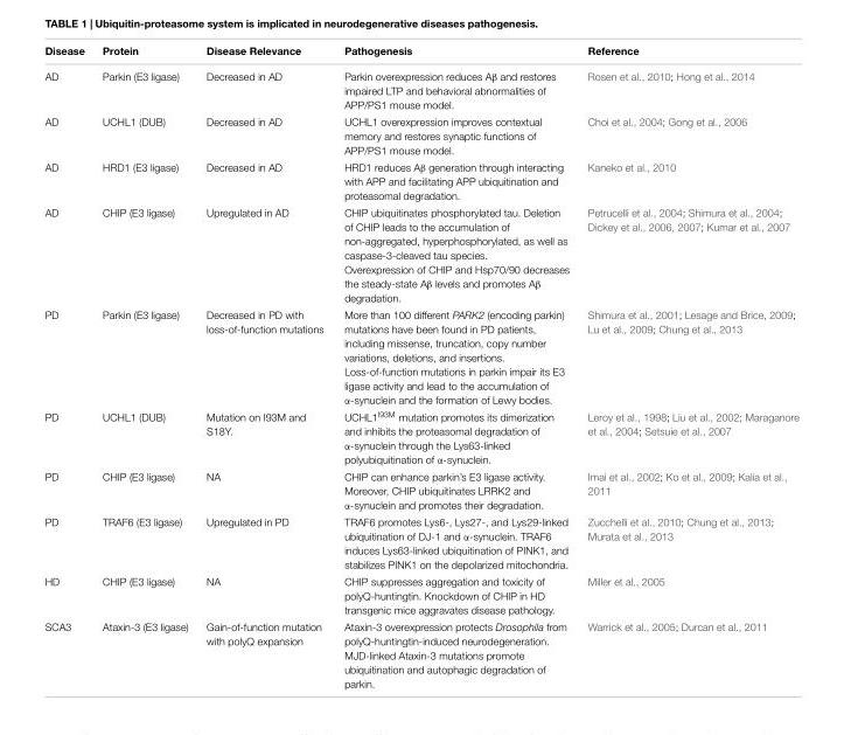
<table><thead><tr><td>Disease</td><td>Protein</td><td>Disease Relevance</td><td>Pathogenesis</td><td>Reference</td></tr></thead><tbody><tr><td>AD</td><td>Parkin (E3 ligase)</td><td>Decreased in AD</td><td>Parkin overexpression reduces Aβ and restores impaired LTP and behavioral abnormalities of APP/PS1 mouse model.</td><td>Rosen et al., 2010; Hong et al., 2014</td></tr><tr><td>AD</td><td>UCHL1 (DUB)</td><td>Decreased in AD</td><td>UCHL1 overexpression improves contextual memory and restores synaptic functions of APP/PS1 mouse model.</td><td>Choi et al., 2004; Gong et al., 2006</td></tr><tr><td>AD</td><td>HRD1 (E3 ligase)</td><td>Decreased in AD</td><td>HRD1 reduces Aβ generation through interacting with APP and facilitating APP ubiquitination and proteasomal degradation.</td><td>Kaneko et al., 2010</td></tr><tr><td>AD</td><td>CHIP (E3 ligase)</td><td>Upregulated in AD</td><td>CHIP ubiquitinates phosphorylated tau. Deletion of CHIP leads to the accumulation of non-aggregated, hyperphosphorylated, as well as caspase-3-cleaved tau species. Overexpression of CHIP and Hsp70/90 decreases the steady-state Aβ levels and promotes Aβ degradation.</td><td>Petrucelli et al., 2004; Shimura et al., 2004; Dickey et al., 2006, 2007; Kumar et al., 2007</td></tr><tr><td>PD</td><td>Parkin (E3 ligase)</td><td>Decreased in PD with loss-of-function mutations</td><td>More than 100 different PARK2 (encoding parkin) mutations have been found in PD patients, including missense, truncation, copy number variations, deletions, and insertions. Loss-of-function mutations in parkin impair its E3 ligase activity and lead to the accumulation of α-synuclein and the formation of Lewy bodies.</td><td>Shimura et al., 2001; Lesage and Brice, 2009; Lu et al., 2009; Chung et al., 2013</td></tr><tr><td>PD</td><td>UCHL1 (DUB)</td><td>Mutation on I93M and S18Y.</td><td>UCHL1<sup>I93M</sup> mutation promotes its dimerization and inhibits the proteasomal degradation of α-synuclein through the Lys63-linked polyubiquitination of α-synuclein.</td><td>Leroy et al., 1998; Liu et al., 2002; Maraganore et al., 2004; Setsuie et al., 2007</td></tr><tr><td>PD</td><td>CHIP (E3 ligase)</td><td>NA</td><td>CHIP can enhance parkin’s E3 ligase activity. Moreover, CHIP ubiquitinates LRRK2 and α-synuclein and promotes their degradation.</td><td>Imai et al., 2002; Ko et al., 2009; Kalia et al., 2011</td></tr><tr><td>PD</td><td>TRAF6 (E3 ligase)</td><td>Upregulated in PD</td><td>TRAF6 promotes Lys6-, Lys27-, and Lys29-linked ubiquitination of DJ-1 and α-synuclein. TRAF6 induces Lys63-linked ubiquitination of PINK1, and stabilizes PINK1 on the depolarized mitochondria.</td><td>Zucchelli et al., 2010; Chung et al., 2013; Murata et al., 2013</td></tr><tr><td>HD</td><td>CHIP (E3 ligase)</td><td>NA</td><td>CHIP suppresses aggregation and toxicity of polyQ-huntingtin. Knockdown of CHIP in HD transgenic mice aggravates disease pathology.</td><td>Miller et al., 2005</td></tr><tr><td>SCA3</td><td>Ataxin-3 (E3 ligase)</td><td>Gain-of-function mutation with polyQ expansion</td><td>Ataxin-3 overexpression protects Drosophila from polyQ-huntingtin-induced neurodegeneration. MJD-linked Ataxin-3 mutations promote ubiquitination and autophagic degradation of parkin.</td><td>Warrick et al., 2005; Durcan et al., 2011</td></tr></tbody></table>